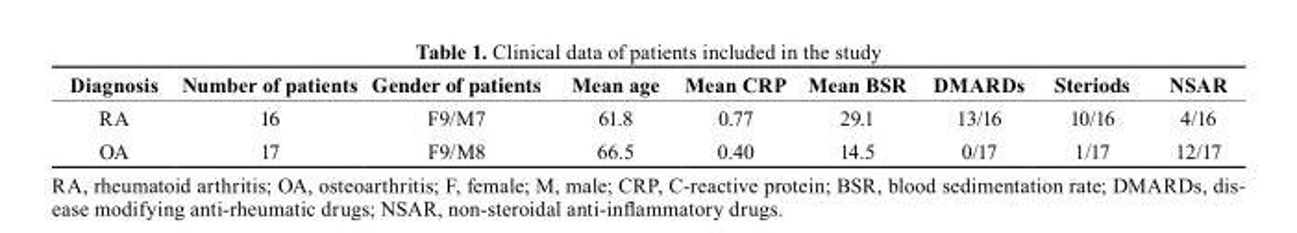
<table><thead><tr><td>diagnosis</td><td>Number of patients</td><td>Gender of patients</td><td>Mean age</td><td>Mean CRP</td><td>Mean BSR</td><td>dMARds</td><td>steriods</td><td>NSAR</td></tr></thead><tbody><tr><td>RA</td><td>16</td><td>F9/M7</td><td>61.8</td><td>0.77</td><td>29.1</td><td>13/16</td><td>10/16</td><td>4/16</td></tr><tr><td>OA</td><td>17</td><td>F9/M8</td><td>66.5</td><td>0.40</td><td>14.5</td><td>0/17</td><td>1/17</td><td>12/17</td></tr></tbody></table>